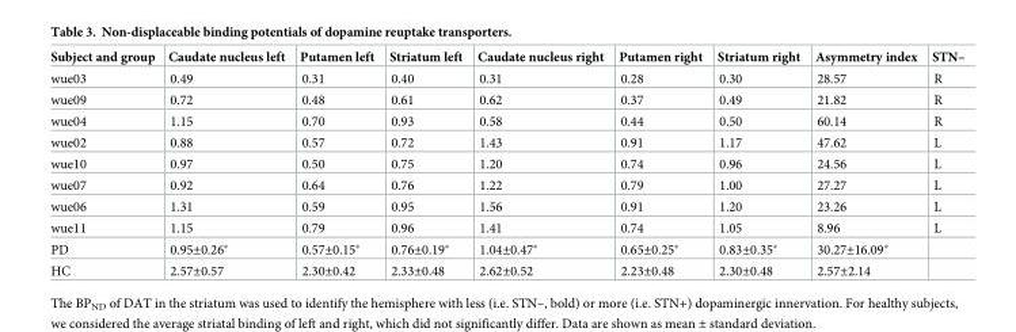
<table><thead><tr><td>Subject and group</td><td>Caudate nucleus left</td><td>Putamen left</td><td>Striatum left</td><td>Caudate nucleus right</td><td>Putamen right</td><td>Striatum right</td><td>Asymmetry index</td><td>STN–</td></tr></thead><tbody><tr><td>wue03</td><td>0.49</td><td>0.31</td><td>0.40</td><td>0.31</td><td>0.28</td><td>0.30</td><td>28.57</td><td>R</td></tr><tr><td>wue09</td><td>0.72</td><td>0.48</td><td>0.61</td><td>0.62</td><td>0.37</td><td>0.49</td><td>21.82</td><td>R</td></tr><tr><td>wue04</td><td>1.15</td><td>0.70</td><td>0.93</td><td>0.58</td><td>0.44</td><td>0.50</td><td>60.14</td><td>R</td></tr><tr><td>wue02</td><td>0.88</td><td>0.57</td><td>0.72</td><td>1.43</td><td>0.91</td><td>1.17</td><td>47.62</td><td>L</td></tr><tr><td>wue10</td><td>0.97</td><td>0.50</td><td>0.75</td><td>1.20</td><td>0.74</td><td>0.96</td><td>24.56</td><td>L</td></tr><tr><td>wue07</td><td>0.92</td><td>0.64</td><td>0.76</td><td>1.22</td><td>0.79</td><td>1.00</td><td>27.27</td><td>L</td></tr><tr><td>wue06</td><td>1.31</td><td>0.59</td><td>0.95</td><td>1.56</td><td>0.91</td><td>1.20</td><td>23.26</td><td>L</td></tr><tr><td>wue11</td><td>1.15</td><td>0.79</td><td>0.96</td><td>1.41</td><td>0.74</td><td>1.05</td><td>8.96</td><td>L</td></tr><tr><td>PD</td><td>0.95±0.26*</td><td>0.57±0.15*</td><td>0.76±0.19*</td><td>1.04±0.47*</td><td>0.65±0.25*</td><td>0.83±0.35*</td><td>30.27±16.09*</td><td></td></tr><tr><td>HC</td><td>2.57±0.57</td><td>2.30±0.42</td><td>2.33±0.48</td><td>2.62±0.52</td><td>2.23±0.48</td><td>2.30±0.48</td><td>2.57±2.14</td><td></td></tr></tbody></table>